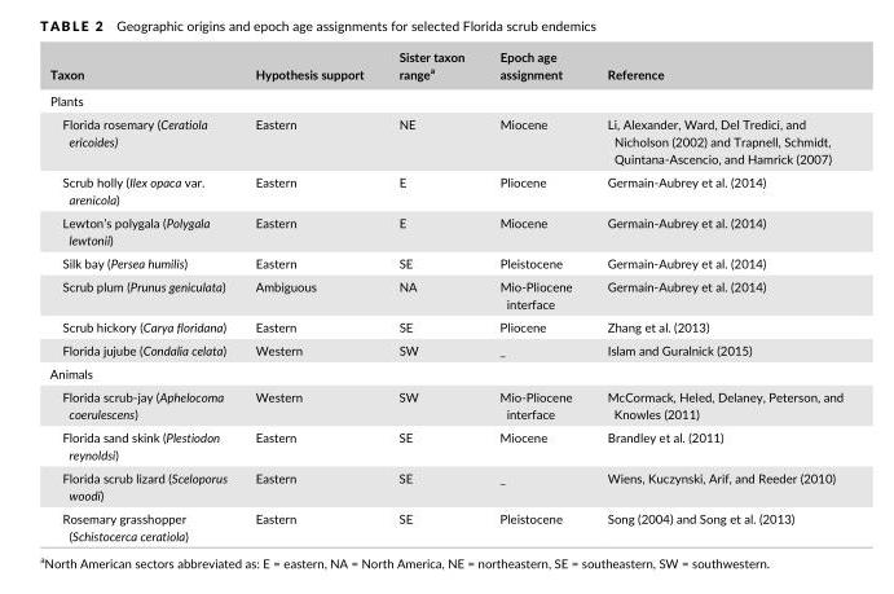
<table><thead><tr><td>Taxon</td><td>Hypothesis support</td><td>Sister taxon range<sup>a</sup></td><td>Epoch age assignment</td><td>Reference</td></tr></thead><tbody><tr><td colspan="5">Plants</td></tr><tr><td>Florida rosemary (Ceratiola ericoides)</td><td>Eastern</td><td>NE</td><td>Miocene</td><td>Li, Alexander, Ward, Del Tredici, and Nicholson (2002) and Trapnell, Schmidt, Quintana- Ascencio, and Hamrick (2007)</td></tr><tr><td>Scrub holly (Ilex opaca var. arenicola)</td><td>Eastern</td><td>E</td><td>Pliocene</td><td>Germain- Aubrey et al. (2014)</td></tr><tr><td>Lewton’s polygala (Polygala lewtonii)</td><td>Eastern</td><td>E</td><td>Miocene</td><td>Germain- Aubrey et al. (2014)</td></tr><tr><td>Silk bay (Persea humilis)</td><td>Eastern</td><td>SE</td><td>Pleistocene</td><td>Germain- Aubrey et al. (2014)</td></tr><tr><td>Scrub plum (Prunus geniculata)</td><td>Ambiguous</td><td>NA</td><td>Mio- Pliocene interface</td><td>Germain- Aubrey et al. (2014)</td></tr><tr><td>Scrub hickory (Carya floridana)</td><td>Eastern</td><td>SE</td><td>Pliocene</td><td>Zhang et al. (2013)</td></tr><tr><td>Florida jujube (Condalia celata)</td><td>Western</td><td>SW</td><td>_</td><td>Islam and Guralnick (2015)</td></tr><tr><td colspan="5">Animals</td></tr><tr><td>Florida scrub- jay (Aphelocoma coerulescens)</td><td>Western</td><td>SW</td><td>Mio- Pliocene interface</td><td>McCormack, Heled, Delaney, Peterson, and Knowles (2011)</td></tr><tr><td>Florida sand skink (Plestiodon reynoldsi)</td><td>Eastern</td><td>SE</td><td>Miocene</td><td>Brandley et al. (2011)</td></tr><tr><td>Florida scrub lizard (Sceloporus woodi)</td><td>Eastern</td><td>SE</td><td>_</td><td>Wiens, Kuczynski, Arif, and Reeder (2010)</td></tr><tr><td>Rosemary grasshopper (Schistocerca ceratiola)</td><td>Eastern</td><td>SE</td><td>Pleistocene</td><td>Song (2004) and Song et al. (2013)</td></tr></tbody></table>